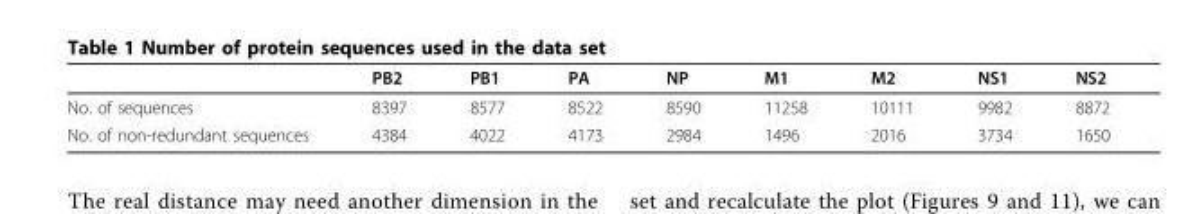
<table><thead><tr><td></td><td>PB2</td><td>PB1</td><td>PA</td><td>NP</td><td>M1</td><td>M2</td><td>NS1</td><td>NS2</td></tr></thead><tbody><tr><td>No. of sequences</td><td>8397</td><td>8577</td><td>8522</td><td>8590</td><td>11258</td><td>10111</td><td>9982</td><td>8872</td></tr><tr><td>No. of non-redundant sequences</td><td>4384</td><td>4022</td><td>4173</td><td>2984</td><td>1496</td><td>2016</td><td>3734</td><td>1650</td></tr></tbody></table>